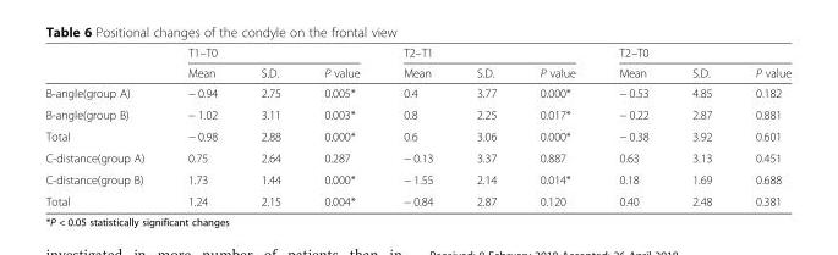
<table><thead><tr><td rowspan="2"></td><td colspan="3">T1–T0</td><td colspan="3">T2–T1</td><td colspan="3">T2–T0</td></tr><tr><td>Mean</td><td>S.D.</td><td>P value</td><td>Mean</td><td>S.D.</td><td>P value</td><td>Mean</td><td>S.D.</td><td>P value</td></tr></thead><tbody><tr><td>B-angle(group A)</td><td>− 0.94</td><td>2.75</td><td>0.005*</td><td>0.4</td><td>3.77</td><td>0.000*</td><td>− 0.53</td><td>4.85</td><td>0.182</td></tr><tr><td>B-angle(group B)</td><td>− 1.02</td><td>3.11</td><td>0.003*</td><td>0.8</td><td>2.25</td><td>0.017*</td><td>− 0.22</td><td>2.87</td><td>0.881</td></tr><tr><td>Total</td><td>− 0.98</td><td>2.88</td><td>0.000*</td><td>0.6</td><td>3.06</td><td>0.000*</td><td>− 0.38</td><td>3.92</td><td>0.601</td></tr><tr><td>C-distance(group A)</td><td>0.75</td><td>2.64</td><td>0.287</td><td>− 0.13</td><td>3.37</td><td>0.887</td><td>0.63</td><td>3.13</td><td>0.451</td></tr><tr><td>C-distance(group B)</td><td>1.73</td><td>1.44</td><td>0.000*</td><td>− 1.55</td><td>2.14</td><td>0.014*</td><td>0.18</td><td>1.69</td><td>0.688</td></tr><tr><td>Total</td><td>1.24</td><td>2.15</td><td>0.004*</td><td>− 0.84</td><td>2.87</td><td>0.120</td><td>0.40</td><td>2.48</td><td>0.381</td></tr></tbody></table>